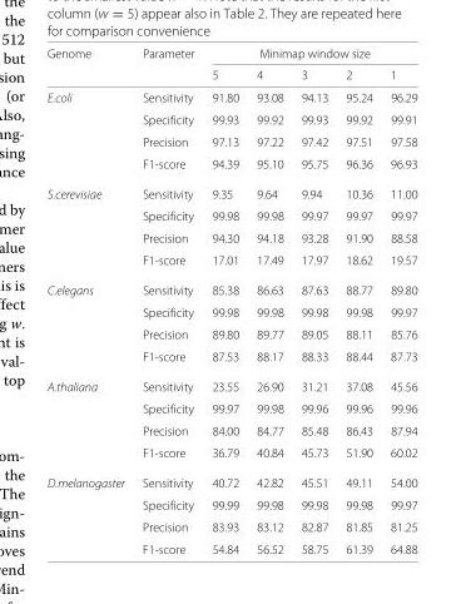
<table><thead><tr><td rowspan="2">Genome</td><td rowspan="2">Parameter</td><td colspan="5">Minimap window size</td></tr><tr><td>5</td><td>4</td><td>3</td><td>2</td><td>1</td></tr></thead><tbody><tr><td rowspan="4">E.coli</td><td>Sensitivity</td><td>91.80</td><td>93.08</td><td>94.13</td><td>95.24</td><td>96.29</td></tr><tr><td>Specificity</td><td>99.93</td><td>99.92</td><td>99.93</td><td>99.92</td><td>99.91</td></tr><tr><td>Precision</td><td>97.13</td><td>97.22</td><td>97.42</td><td>97.51</td><td>97.58</td></tr><tr><td>F1-score</td><td>94.39</td><td>95.10</td><td>95.75</td><td>96.36</td><td>96.93</td></tr><tr><td rowspan="4">S.cerevisiae</td><td>Sensitivity</td><td>9.35</td><td>9.64</td><td>9.94</td><td>10.36</td><td>11.00</td></tr><tr><td>Specificity</td><td>99.98</td><td>99.98</td><td>99.97</td><td>99.97</td><td>99.97</td></tr><tr><td>Precision</td><td>94.30</td><td>94.18</td><td>93.28</td><td>91.90</td><td>88.58</td></tr><tr><td>F1-score</td><td>17.01</td><td>17.49</td><td>17.97</td><td>18.62</td><td>19.57</td></tr><tr><td rowspan="4">C.elegans</td><td>Sensitivity</td><td>85.38</td><td>86.63</td><td>87.63</td><td>88.77</td><td>89.80</td></tr><tr><td>Specificity</td><td>99.98</td><td>99.98</td><td>99.98</td><td>99.98</td><td>99.97</td></tr><tr><td>Precision</td><td>89.80</td><td>89.77</td><td>89.05</td><td>88.11</td><td>85.76</td></tr><tr><td>F1-score</td><td>87.53</td><td>88.17</td><td>88.33</td><td>88.44</td><td>87.73</td></tr><tr><td rowspan="4">A.thaliana</td><td>Sensitivity</td><td>23.55</td><td>26.90</td><td>31.21</td><td>37.08</td><td>45.56</td></tr><tr><td>Specificity</td><td>99.97</td><td>99.98</td><td>99.96</td><td>99.96</td><td>99.96</td></tr><tr><td>Precision</td><td>84.00</td><td>84.77</td><td>85.48</td><td>86.43</td><td>87.94</td></tr><tr><td>F1-score</td><td>36.79</td><td>40.84</td><td>45.73</td><td>51.90</td><td>60.02</td></tr><tr><td rowspan="4">D.melanogaster</td><td>Sensitivity</td><td>40.72</td><td>42.82</td><td>45.51</td><td>49.11</td><td>54.00</td></tr><tr><td>Specificity</td><td>99.99</td><td>99.98</td><td>99.98</td><td>99.98</td><td>99.97</td></tr><tr><td>Precision</td><td>83.93</td><td>83.12</td><td>82.87</td><td>81.85</td><td>81.25</td></tr><tr><td>F1-score</td><td>54.84</td><td>56.52</td><td>58.75</td><td>61.39</td><td>64.88</td></tr></tbody></table>